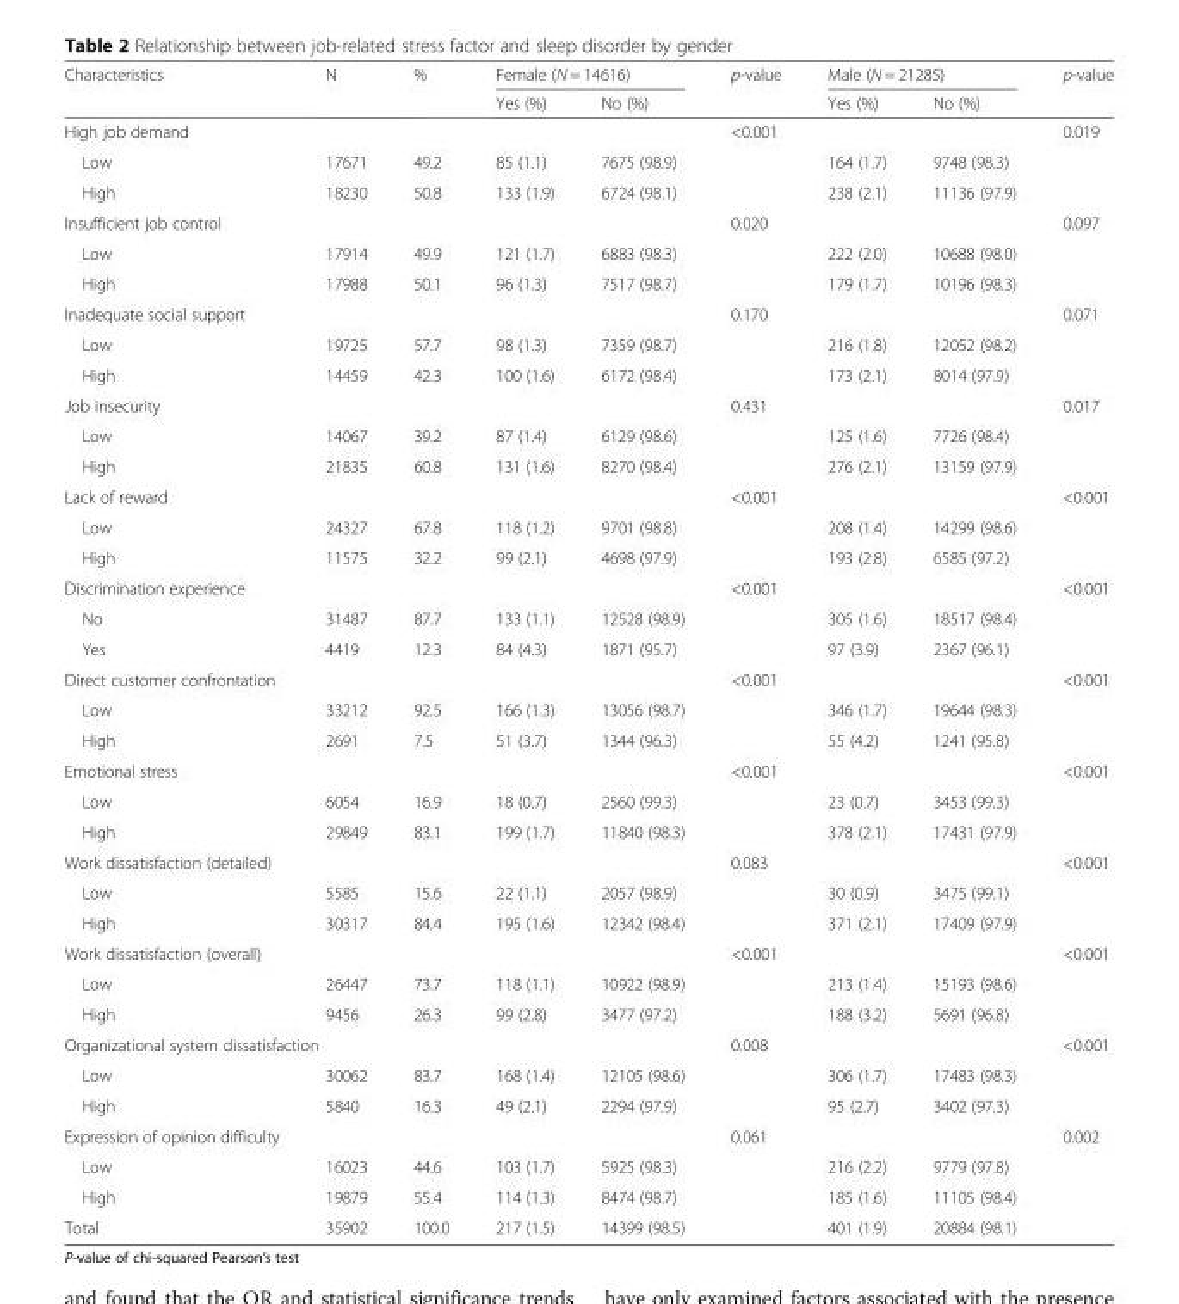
<table><thead><tr><td rowspan="2">Characteristics</td><td rowspan="2">N</td><td rowspan="2">%</td><td colspan="2">Female (N = 14616)</td><td rowspan="2">p-value</td><td colspan="2">Male (N = 21285)</td><td rowspan="2">p-value</td></tr><tr><td>Yes (%)</td><td>No (%)</td><td>Yes (%)</td><td>No (%)</td></tr></thead><tbody><tr><td>High job demand</td><td></td><td></td><td></td><td></td><td>&lt;0.001</td><td></td><td></td><td>0.019</td></tr><tr><td>Low</td><td>17671</td><td>49.2</td><td>85 (1.1)</td><td>7675 (98.9)</td><td></td><td>164 (1.7)</td><td>9748 (98.3)</td><td></td></tr><tr><td>High</td><td>18230</td><td>50.8</td><td>133 (1.9)</td><td>6724 (98.1)</td><td></td><td>238 (2.1)</td><td>11136 (97.9)</td><td></td></tr><tr><td>Insufficient job control</td><td></td><td></td><td></td><td></td><td>0.020</td><td></td><td></td><td>0.097</td></tr><tr><td>Low</td><td>17914</td><td>49.9</td><td>121 (1.7)</td><td>6883 (98.3)</td><td></td><td>222 (2.0)</td><td>10688 (98.0)</td><td></td></tr><tr><td>High</td><td>17988</td><td>50.1</td><td>96 (1.3)</td><td>7517 (98.7)</td><td></td><td>179 (1.7)</td><td>10196 (98.3)</td><td></td></tr><tr><td>Inadequate social support</td><td></td><td></td><td></td><td></td><td>0.170</td><td></td><td></td><td>0.071</td></tr><tr><td>Low</td><td>19725</td><td>57.7</td><td>98 (1.3)</td><td>7359 (98.7)</td><td></td><td>216 (1.8)</td><td>12052 (98.2)</td><td></td></tr><tr><td>High</td><td>14459</td><td>42.3</td><td>100 (1.6)</td><td>6172 (98.4)</td><td></td><td>173 (2.1)</td><td>8014 (97.9)</td><td></td></tr><tr><td>Job insecurity</td><td></td><td></td><td></td><td></td><td>0.431</td><td></td><td></td><td>0.017</td></tr><tr><td>Low</td><td>14067</td><td>39.2</td><td>87 (1.4)</td><td>6129 (98.6)</td><td></td><td>125 (1.6)</td><td>7726 (98.4)</td><td></td></tr><tr><td>High</td><td>21835</td><td>60.8</td><td>131 (1.6)</td><td>8270 (98.4)</td><td></td><td>276 (2.1)</td><td>13159 (97.9)</td><td></td></tr><tr><td>Lack of reward</td><td></td><td></td><td></td><td></td><td>&lt;0.001</td><td></td><td></td><td>&lt;0.001</td></tr><tr><td>Low</td><td>24327</td><td>67.8</td><td>118 (1.2)</td><td>9701 (98.8)</td><td></td><td>208 (1.4)</td><td>14299 (98.6)</td><td></td></tr><tr><td>High</td><td>11575</td><td>32.2</td><td>99 (2.1)</td><td>4698 (97.9)</td><td></td><td>193 (2.8)</td><td>6585 (97.2)</td><td></td></tr><tr><td>Discrimination experience</td><td></td><td></td><td></td><td></td><td>&lt;0.001</td><td></td><td></td><td>&lt;0.001</td></tr><tr><td>No</td><td>31487</td><td>87.7</td><td>133 (1.1)</td><td>12528 (98.9)</td><td></td><td>305 (1.6)</td><td>18517 (98.4)</td><td></td></tr><tr><td>Yes</td><td>4419</td><td>12.3</td><td>84 (4.3)</td><td>1871 (95.7)</td><td></td><td>97 (3.9)</td><td>2367 (96.1)</td><td></td></tr><tr><td>Direct customer confrontation</td><td></td><td></td><td></td><td></td><td>&lt;0.001</td><td></td><td></td><td>&lt;0.001</td></tr><tr><td>Low</td><td>33212</td><td>92.5</td><td>166 (1.3)</td><td>13056 (98.7)</td><td></td><td>346 (1.7)</td><td>19644 (98.3)</td><td></td></tr><tr><td>High</td><td>2691</td><td>7.5</td><td>51 (3.7)</td><td>1344 (96.3)</td><td></td><td>55 (4.2)</td><td>1241 (95.8)</td><td></td></tr><tr><td>Emotional stress</td><td></td><td></td><td></td><td></td><td>&lt;0.001</td><td></td><td></td><td>&lt;0.001</td></tr><tr><td>Low</td><td>6054</td><td>16.9</td><td>18 (0.7)</td><td>2560 (99.3)</td><td></td><td>23 (0.7)</td><td>3453 (99.3)</td><td></td></tr><tr><td>High</td><td>29849</td><td>83.1</td><td>199 (1.7)</td><td>11840 (98.3)</td><td></td><td>378 (2.1)</td><td>17431 (97.9)</td><td></td></tr><tr><td>Work dissatisfaction (detailed)</td><td></td><td></td><td></td><td></td><td>0.083</td><td></td><td></td><td>&lt;0.001</td></tr><tr><td>Low</td><td>5585</td><td>15.6</td><td>22 (1.1)</td><td>2057 (98.9)</td><td></td><td>30 (0.9)</td><td>3475 (99.1)</td><td></td></tr><tr><td>High</td><td>30317</td><td>84.4</td><td>195 (1.6)</td><td>12342 (98.4)</td><td></td><td>371 (2.1)</td><td>17409 (97.9)</td><td></td></tr><tr><td>Work dissatisfaction (overall)</td><td></td><td></td><td></td><td></td><td>&lt;0.001</td><td></td><td></td><td>&lt;0.001</td></tr><tr><td>Low</td><td>26447</td><td>73.7</td><td>118 (1.1)</td><td>10922 (98.9)</td><td></td><td>213 (1.4)</td><td>15193 (98.6)</td><td></td></tr><tr><td>High</td><td>9456</td><td>26.3</td><td>99 (2.8)</td><td>3477 (97.2)</td><td></td><td>188 (3.2)</td><td>5691 (96.8)</td><td></td></tr><tr><td colspan="2">Organizational system dissatisfaction</td><td></td><td></td><td></td><td>0.008</td><td></td><td></td><td>&lt;0.001</td></tr><tr><td>Low</td><td>30062</td><td>83.7</td><td>168 (1.4)</td><td>12105 (98.6)</td><td></td><td>306 (1.7)</td><td>17483 (98.3)</td><td></td></tr><tr><td>High</td><td>5840</td><td>16.3</td><td>49 (2.1)</td><td>2294 (97.9)</td><td></td><td>95 (2.7)</td><td>3402 (97.3)</td><td></td></tr><tr><td>Expression of opinion difficulty</td><td></td><td></td><td></td><td></td><td>0.061</td><td></td><td></td><td>0.002</td></tr><tr><td>Low</td><td>16023</td><td>44.6</td><td>103 (1.7)</td><td>5925 (98.3)</td><td></td><td>216 (2.2)</td><td>9779 (97.8)</td><td></td></tr><tr><td>High</td><td>19879</td><td>55.4</td><td>114 (1.3)</td><td>8474 (98.7)</td><td></td><td>185 (1.6)</td><td>11105 (98.4)</td><td></td></tr><tr><td>Total</td><td>35902</td><td>100.0</td><td>217 (1.5)</td><td>14399 (98.5)</td><td></td><td>401 (1.9)</td><td>20884 (98.1)</td><td></td></tr></tbody></table>